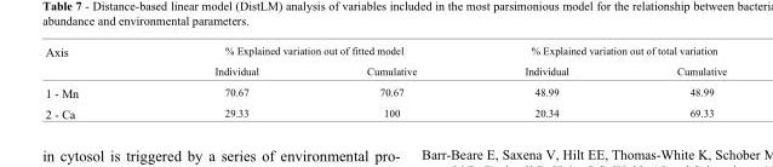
<table><thead><tr><td rowspan="2">Axis</td><td colspan="2">% Explained variation out of fitted model</td><td colspan="2">% Explained variation out of total variation</td></tr><tr><td>Individual</td><td>Cumulative</td><td>Individual</td><td>Cumulative</td></tr></thead><tbody><tr><td>1 - Mn</td><td>70.67</td><td>70.67</td><td>48.99</td><td>48.99</td></tr><tr><td>2 - Ca</td><td>29.33</td><td>100</td><td>20.34</td><td>69.33</td></tr></tbody></table>